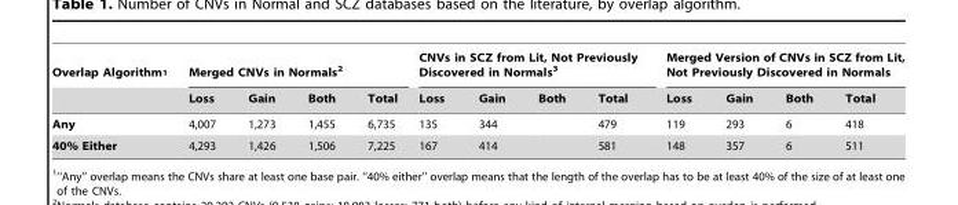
<table><thead><tr><td rowspan="2">Overlap Algorithm<sup>1</sup></td><td colspan="4">Merged CNVs in Normals<sup>2</sup></td><td colspan="4">CNVs in SCZ from Lit, Not Previously Discovered in Normals<sup>3</sup></td><td colspan="4">Merged Version of CNVs in SCZ from Lit, Not Previously Discovered in Normals</td></tr><tr><td>Loss</td><td>Gain</td><td>Both</td><td>Total</td><td>Loss</td><td>Gain</td><td>Both</td><td>Total</td><td>Loss</td><td>Gain</td><td>Both</td><td>Total</td></tr></thead><tbody><tr><td>Any</td><td>4,007</td><td>1,273</td><td>1,455</td><td>6,735</td><td>135</td><td>344</td><td></td><td>479</td><td>119</td><td>293</td><td>6</td><td>418</td></tr><tr><td>40% Either</td><td>4,293</td><td>1,426</td><td>1,506</td><td>7,225</td><td>167</td><td>414</td><td></td><td>581</td><td>148</td><td>357</td><td>6</td><td>511</td></tr></tbody></table>